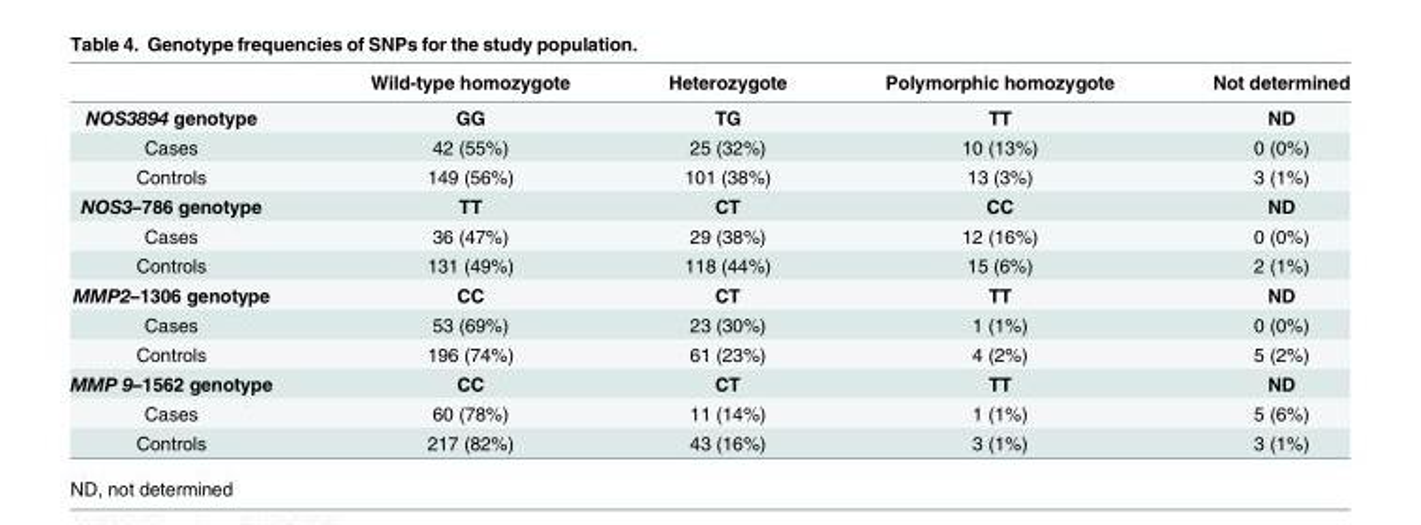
<table><thead><tr><td></td><td>Wild-type homozygote</td><td>Heterozygote</td><td>Polymorphic homozygote</td><td>Not determined</td></tr></thead><tbody><tr><td>NOS3894 genotype</td><td>GG</td><td>TG</td><td>TT</td><td>ND</td></tr><tr><td>Cases</td><td>42 (55%)</td><td>25 (32%)</td><td>10 (13%)</td><td>0 (0%)</td></tr><tr><td>Controls</td><td>149 (56%)</td><td>101 (38%)</td><td>13 (3%)</td><td>3 (1%)</td></tr><tr><td>NOS3–786 genotype</td><td>TT</td><td>CT</td><td>CC</td><td>ND</td></tr><tr><td>Cases</td><td>36 (47%)</td><td>29 (38%)</td><td>12 (16%)</td><td>0 (0%)</td></tr><tr><td>Controls</td><td>131 (49%)</td><td>118 (44%)</td><td>15 (6%)</td><td>2 (1%)</td></tr><tr><td>MMP2–1306 genotype</td><td>CC</td><td>CT</td><td>TT</td><td>ND</td></tr><tr><td>Cases</td><td>53 (69%)</td><td>23 (30%)</td><td>1 (1%)</td><td>0 (0%)</td></tr><tr><td>Controls</td><td>196 (74%)</td><td>61 (23%)</td><td>4 (2%)</td><td>5 (2%)</td></tr><tr><td>MMP 9–1562 genotype</td><td>CC</td><td>CT</td><td>TT</td><td>ND</td></tr><tr><td>Cases</td><td>60 (78%)</td><td>11 (14%)</td><td>1 (1%)</td><td>5 (6%)</td></tr><tr><td>Controls</td><td>217 (82%)</td><td>43 (16%)</td><td>3 (1%)</td><td>3 (1%)</td></tr></tbody></table>